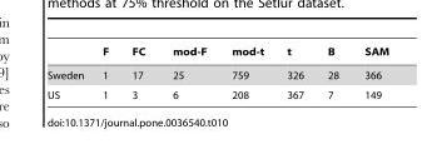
<table><thead><tr><td></td><td>F</td><td>FC</td><td>mod-F</td><td>mod-t</td><td>t</td><td>B</td><td>SAM</td></tr></thead><tbody><tr><td>Sweden</td><td>1</td><td>17</td><td>25</td><td>759</td><td>326</td><td>28</td><td>366</td></tr><tr><td>US</td><td>1</td><td>3</td><td>6</td><td>208</td><td>367</td><td>7</td><td>149</td></tr></tbody></table>